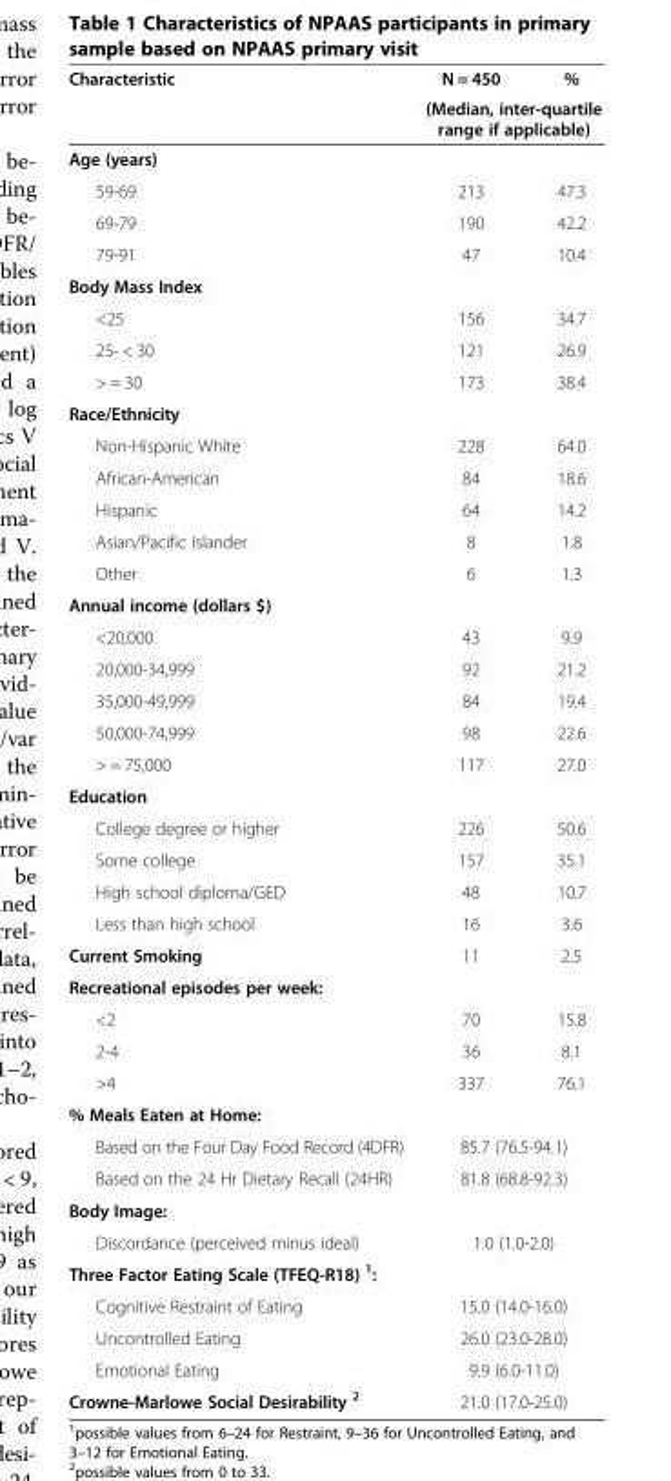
<table><thead><tr><td rowspan="2">Characteristic</td><td>N = 450</td><td>%</td></tr><tr><td colspan="2">(Median, inter-quartile range if applicable)</td></tr></thead><tbody><tr><td colspan="3">Age (years)</td></tr><tr><td>59-69</td><td>213</td><td>47.3</td></tr><tr><td>69-79</td><td>190</td><td>42.2</td></tr><tr><td>79-91</td><td>47</td><td>10.4</td></tr><tr><td colspan="3">Body Mass Index</td></tr><tr><td>&lt;25</td><td>156</td><td>34.7</td></tr><tr><td>25- &lt; 30</td><td>121</td><td>26.9</td></tr><tr><td>&gt; = 30</td><td>173</td><td>38.4</td></tr><tr><td colspan="3">Race/Ethnicity</td></tr><tr><td>Non-Hispanic White</td><td>228</td><td>64.0</td></tr><tr><td>African-American</td><td>84</td><td>18.6</td></tr><tr><td>Hispanic</td><td>64</td><td>14.2</td></tr><tr><td>Asian/Pacific Islander</td><td>8</td><td>1.8</td></tr><tr><td>Other</td><td>6</td><td>1.3</td></tr><tr><td colspan="3">Annual income (dollars $)</td></tr><tr><td>&lt;20,000</td><td>43</td><td>9.9</td></tr><tr><td>20,000-34,999</td><td>92</td><td>21.2</td></tr><tr><td>35,000-49,999</td><td>84</td><td>19.4</td></tr><tr><td>50,000-74,999</td><td>98</td><td>22.6</td></tr><tr><td>&gt; = 75,000</td><td>117</td><td>27.0</td></tr><tr><td colspan="3">Education</td></tr><tr><td>College degree or higher</td><td>226</td><td>50.6</td></tr><tr><td>Some college</td><td>157</td><td>35.1</td></tr><tr><td>High school diploma/GED</td><td>48</td><td>10.7</td></tr><tr><td>Less than high school</td><td>16</td><td>3.6</td></tr><tr><td>Current Smoking</td><td>11</td><td>2.5</td></tr><tr><td colspan="3">Recreational episodes per week:</td></tr><tr><td>&lt;2</td><td>70</td><td>15.8</td></tr><tr><td>2-4</td><td>36</td><td>8.1</td></tr><tr><td>&gt;4</td><td>337</td><td>76.1</td></tr><tr><td colspan="3">% Meals Eaten at Home:</td></tr><tr><td>Based on the Four Day Food Record (4DFR)</td><td colspan="2">85.7 (76.5-94.1)</td></tr><tr><td>Based on the 24 Hr Dietary Recall (24HR)</td><td colspan="2">81.8 (68.8-92.3)</td></tr><tr><td colspan="3">Body Image:</td></tr><tr><td>Discordance (perceived minus ideal)</td><td colspan="2">1.0 (1.0-2.0)</td></tr><tr><td colspan="3">Three Factor Eating Scale (TFEQ-R18) <sup>1</sup>:</td></tr><tr><td>Cognitive Restraint of Eating</td><td colspan="2">15.0 (14.0-16.0)</td></tr><tr><td>Uncontrolled Eating</td><td colspan="2">26.0 (23.0-28.0)</td></tr><tr><td>Emotional Eating</td><td colspan="2">9.9 (6.0-11.0)</td></tr><tr><td>Crowne-Marlowe Social Desirability <sup>2</sup></td><td colspan="2">21.0 (17.0-25.0)</td></tr></tbody></table>